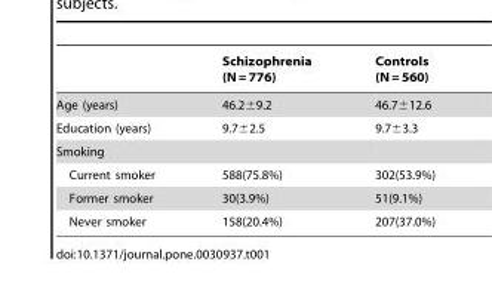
<table><thead><tr><td></td><td>Schizophrenia (N = 776)</td><td>Controls (N = 560)</td></tr></thead><tbody><tr><td>Age (years)</td><td>46.2±9.2</td><td>46.7±12.6</td></tr><tr><td>Education (years)</td><td>9.7±2.5</td><td>9.7±3.3</td></tr><tr><td colspan="3">Smoking</td></tr><tr><td>Current smoker</td><td>588(75.8%)</td><td>302(53.9%)</td></tr><tr><td>Former smoker</td><td>30(3.9%)</td><td>51(9.1%)</td></tr><tr><td>Never smoker</td><td>158(20.4%)</td><td>207(37.0%)</td></tr></tbody></table>